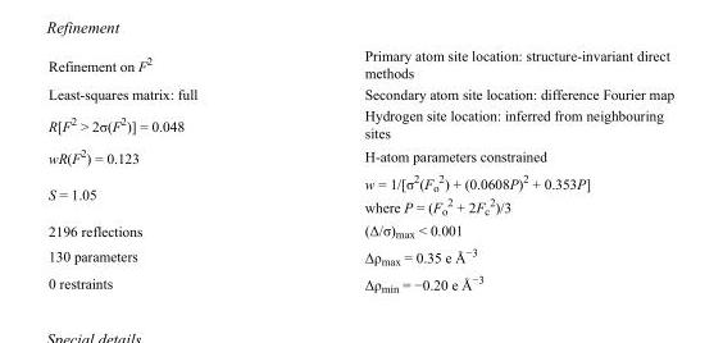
<table><tbody><tr><td>Refinement on F<sup>2</sup></td><td>Primary atom site location: structure-invariant direct methods</td></tr><tr><td>Least-squares matrix: full</td><td>Secondary atom site location: difference Fourier map</td></tr><tr><td>R[F<sup>2</sup> &gt; 2σ(F<sup>2</sup>)] = 0.048</td><td>Hydrogen site location: inferred from neighbouring sites</td></tr><tr><td>wR(F<sup>2</sup>) = 0.123</td><td>H-atom parameters constrained</td></tr><tr><td>S = 1.05</td><td>w = 1/[σ<sup>2</sup>(F<sub>o</sub> <sup>2</sup>) + (0.0608P)<sup>2</sup> + 0.353P] where P = (F<sub>o</sub> <sup>2</sup> + 2F<sub>c</sub> <sup>2</sup>)/3</td></tr><tr><td>2196 reflections</td><td>(Δ/σ)<sub>max</sub> &lt; 0.001</td></tr><tr><td>130 parameters</td><td>Δρ<sub>max</sub> = 0.35 e Å<sup>−3</sup></td></tr><tr><td>0 restraints</td><td>Δρ<sub>min</sub> = −0.20 e Å<sup>−3</sup></td></tr></tbody></table>